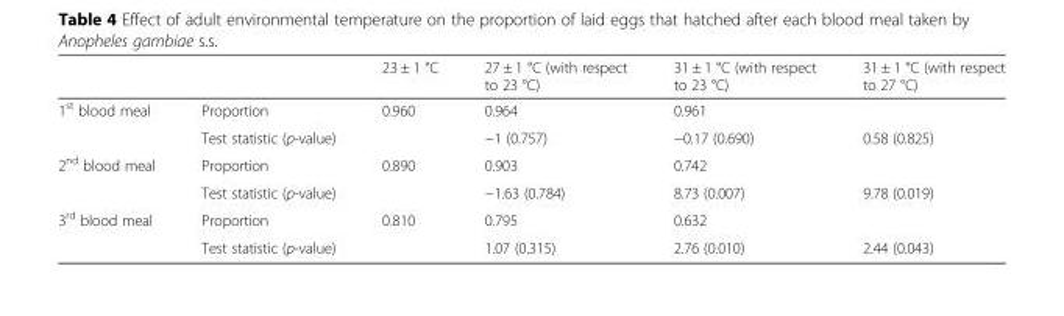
<table><thead><tr><td></td><td></td><td>23 ± 1 °C</td><td>27 ± 1 °C (with respect to 23 °C)</td><td>31 ± 1 °C (with respect to 23 °C)</td><td>31 ± 1 °C (with respect to 27 °C)</td></tr></thead><tbody><tr><td rowspan="2">1<sup>st</sup> blood meal</td><td>Proportion</td><td>0.960</td><td>0.964</td><td colspan="2">0.961</td></tr><tr><td>Test statistic (p-value)</td><td></td><td>−1 (0.757)</td><td>−0.17 (0.690)</td><td>0.58 (0.825)</td></tr><tr><td rowspan="2">2<sup>nd</sup> blood meal</td><td>Proportion</td><td>0.890</td><td>0.903</td><td colspan="2">0.742</td></tr><tr><td>Test statistic (p-value)</td><td></td><td>−1.63 (0.784)</td><td>8.73 (0.007)</td><td>9.78 (0.019)</td></tr><tr><td rowspan="2">3<sup>rd</sup> blood meal</td><td>Proportion</td><td>0.810</td><td>0.795</td><td colspan="2">0.632</td></tr><tr><td>Test statistic (p-value)</td><td></td><td>1.07 (0.315)</td><td>2.76 (0.010)</td><td>2.44 (0.043)</td></tr></tbody></table>